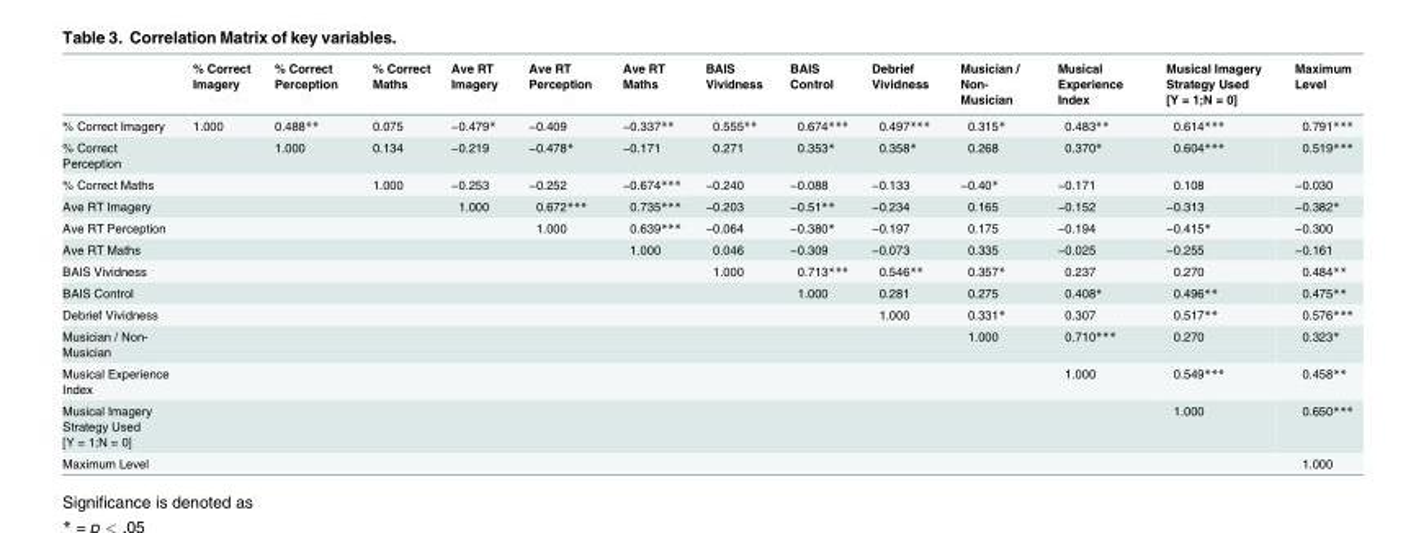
<table><thead><tr><td></td><td>% Correct Imagery</td><td>% Correct Perception</td><td>% Correct Maths</td><td>Ave RT Imagery</td><td>Ave RT Perception</td><td>Ave RT Maths</td><td>BAIS Vividness</td><td>BAIS Control</td><td>Debrief Vividness</td><td>Musician / Non- Musician</td><td>Musical Experience Index</td><td>Musical Imagery Strategy Used [Y = 1;N = 0]</td><td>Maximum Level</td></tr></thead><tbody><tr><td>% Correct Imagery</td><td>1.000</td><td>0.488**</td><td>0.075</td><td>−0.479*</td><td>−0.409</td><td>−0.337**</td><td>0.555**</td><td>0.674***</td><td>0.497***</td><td>0.315*</td><td>0.483**</td><td>0.614***</td><td>0.791***</td></tr><tr><td>% Correct Perception</td><td></td><td>1.000</td><td>0.134</td><td>−0.219</td><td>−0.478*</td><td>−0.171</td><td>0.271</td><td>0.353*</td><td>0.358*</td><td>0.268</td><td>0.370*</td><td>0.604***</td><td>0.519***</td></tr><tr><td>% Correct Maths</td><td></td><td></td><td>1.000</td><td>−0.253</td><td>−0.252</td><td>−0.674***</td><td>−0.240</td><td>−0.088</td><td>−0.133</td><td>−0.40*</td><td>−0.171</td><td>0.108</td><td>−0.030</td></tr><tr><td>Ave RT Imagery</td><td></td><td></td><td></td><td>1.000</td><td>0.672***</td><td>0.735***</td><td>−0.203</td><td>−0.51**</td><td>−0.234</td><td>0.165</td><td>−0.152</td><td>−0.313</td><td>−0.382*</td></tr><tr><td>Ave RT Perception</td><td></td><td></td><td></td><td></td><td>1.000</td><td>0.639***</td><td>−0.064</td><td>−0.380*</td><td>−0.197</td><td>0.175</td><td>−0.194</td><td>−0.415*</td><td>−0.300</td></tr><tr><td>Ave RT Maths</td><td></td><td></td><td></td><td></td><td></td><td>1.000</td><td>0.046</td><td>−0.309</td><td>−0.073</td><td>0.335</td><td>−0.025</td><td>−0.255</td><td>−0.161</td></tr><tr><td>BAIS Vividness</td><td></td><td></td><td></td><td></td><td></td><td></td><td>1.000</td><td>0.713***</td><td>0.546**</td><td>0.357*</td><td>0.237</td><td>0.270</td><td>0.484**</td></tr><tr><td>BAIS Control</td><td></td><td></td><td></td><td></td><td></td><td></td><td></td><td>1.000</td><td>0.281</td><td>0.275</td><td>0.408*</td><td>0.496**</td><td>0.475**</td></tr><tr><td>Debrief Vividness</td><td></td><td></td><td></td><td></td><td></td><td></td><td></td><td></td><td>1.000</td><td>0.331*</td><td>0.307</td><td>0.517**</td><td>0.576***</td></tr><tr><td>Musician / Non- Musician</td><td></td><td></td><td></td><td></td><td></td><td></td><td></td><td></td><td></td><td>1.000</td><td>0.710***</td><td>0.270</td><td>0.323*</td></tr><tr><td>Musical Experience Index</td><td></td><td></td><td></td><td></td><td></td><td></td><td></td><td></td><td></td><td></td><td>1.000</td><td>0.549***</td><td>0.458**</td></tr><tr><td>Musical Imagery Strategy Used [Y = 1;N = 0]</td><td></td><td></td><td></td><td></td><td></td><td></td><td></td><td></td><td></td><td></td><td></td><td>1.000</td><td>0.650***</td></tr><tr><td>Maximum Level</td><td></td><td></td><td></td><td></td><td></td><td></td><td></td><td></td><td></td><td></td><td></td><td></td><td>1.000</td></tr></tbody></table>